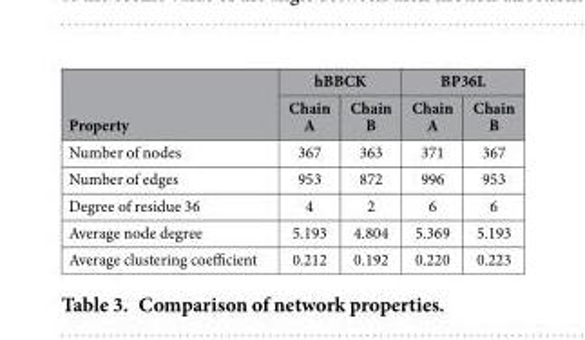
<table><thead><tr><td rowspan="2">Property</td><td colspan="2">hBBCK</td><td colspan="2">BP36L</td></tr><tr><td>Chain A</td><td>Chain B</td><td>Chain A</td><td>Chain B</td></tr></thead><tbody><tr><td>Number of nodes</td><td>367</td><td>363</td><td>371</td><td>367</td></tr><tr><td>Number of edges</td><td>953</td><td>872</td><td>996</td><td>953</td></tr><tr><td>Degree of residue 36</td><td>4</td><td>2</td><td>6</td><td>6</td></tr><tr><td>Average node degree</td><td>5.193</td><td>4.804</td><td>5.369</td><td>5.193</td></tr><tr><td>Average clustering coefficient</td><td>0.212</td><td>0.192</td><td>0.220</td><td>0.223</td></tr></tbody></table>